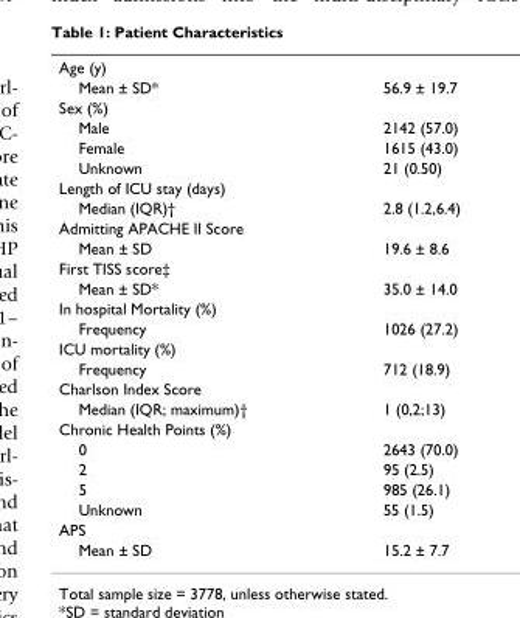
<table><tbody><tr><td colspan="2">Age (y)</td></tr><tr><td>Mean ± SD*</td><td>56.9 ± 19.7</td></tr><tr><td colspan="2">Sex (%)</td></tr><tr><td>Male</td><td>2142 (57.0)</td></tr><tr><td>Female</td><td>1615 (43.0)</td></tr><tr><td>Unknown</td><td>21 (0.50)</td></tr><tr><td colspan="2">Length of ICU stay (days)</td></tr><tr><td>Median (IQR)†</td><td>2.8 (1.2,6.4)</td></tr><tr><td colspan="2">Admitting APACHE II Score</td></tr><tr><td>Mean ± SD</td><td>19.6 ± 8.6</td></tr><tr><td colspan="2">First TISS score‡</td></tr><tr><td>Mean ± SD*</td><td>35.0 ± 14.0</td></tr><tr><td colspan="2">In hospital Mortality (%)</td></tr><tr><td>Frequency</td><td>1026 (27.2)</td></tr><tr><td colspan="2">ICU mortality (%)</td></tr><tr><td>Frequency</td><td>712 (18.9)</td></tr><tr><td colspan="2">Charlson Index Score</td></tr><tr><td>Median (IQR; maximum)†</td><td>1 (0,2;13)</td></tr><tr><td colspan="2">Chronic Health Points (%)</td></tr><tr><td>0</td><td>2643 (70.0)</td></tr><tr><td>2</td><td>95 (2.5)</td></tr><tr><td>5</td><td>985 (26.1)</td></tr><tr><td>Unknown</td><td>55 (1.5)</td></tr><tr><td colspan="2">APS</td></tr><tr><td>Mean ± SD</td><td>15.2 ± 7.7</td></tr></tbody></table>